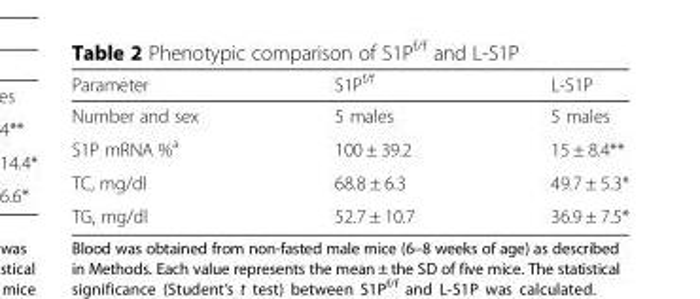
<table><thead><tr><td>Parameter</td><td>S1P<sup>f/f</sup></td><td>L-S1P</td></tr></thead><tbody><tr><td>Number and sex</td><td>5 males</td><td>5 males</td></tr><tr><td>S1P mRNA %<sup>a</sup></td><td>100 ± 39.2</td><td>15 ± 8.4**</td></tr><tr><td>TC, mg/dl</td><td>68.8 ± 6.3</td><td>49.7 ± 5.3*</td></tr><tr><td>TG, mg/dl</td><td>52.7 ± 10.7</td><td>36.9 ± 7.5*</td></tr></tbody></table>